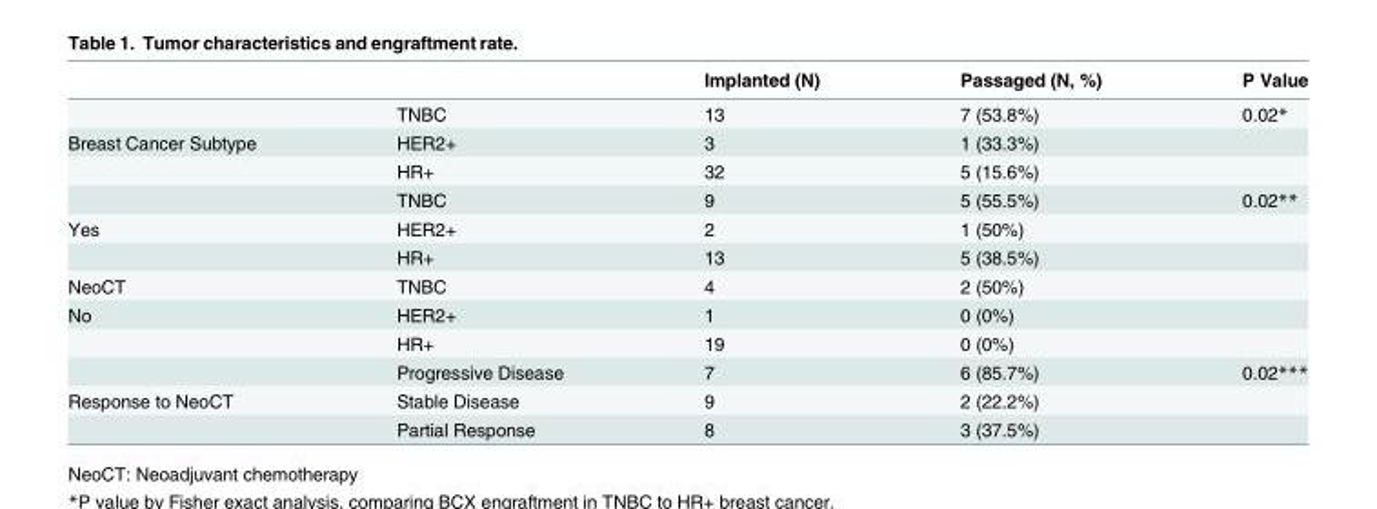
<table><thead><tr><td></td><td></td><td>Implanted (N)</td><td>Passaged (N, %)</td><td>P Value</td></tr></thead><tbody><tr><td></td><td>TNBC</td><td>13</td><td>7 (53.8%)</td><td>0.02*</td></tr><tr><td rowspan="3">Breast Cancer Subtype</td><td>HER2+</td><td>3</td><td>1 (33.3%)</td><td></td></tr><tr><td>HR+</td><td>32</td><td>5 (15.6%)</td><td></td></tr><tr><td>TNBC</td><td>9</td><td>5 (55.5%)</td><td>0.02**</td></tr><tr><td rowspan="2">Yes</td><td>HER2+</td><td>2</td><td>1 (50%)</td><td></td></tr><tr><td>HR+</td><td>13</td><td>5 (38.5%)</td><td></td></tr><tr><td>NeoCT</td><td>TNBC</td><td>4</td><td>2 (50%)</td><td></td></tr><tr><td rowspan="3">No</td><td>HER2+</td><td>1</td><td>0 (0%)</td><td></td></tr><tr><td>HR+</td><td>19</td><td>0 (0%)</td><td></td></tr><tr><td>Progressive Disease</td><td>7</td><td>6 (85.7%)</td><td>0.02***</td></tr><tr><td rowspan="2">Response to NeoCT</td><td>Stable Disease</td><td>9</td><td>2 (22.2%)</td><td></td></tr><tr><td>Partial Response</td><td>8</td><td>3 (37.5%)</td><td></td></tr></tbody></table>